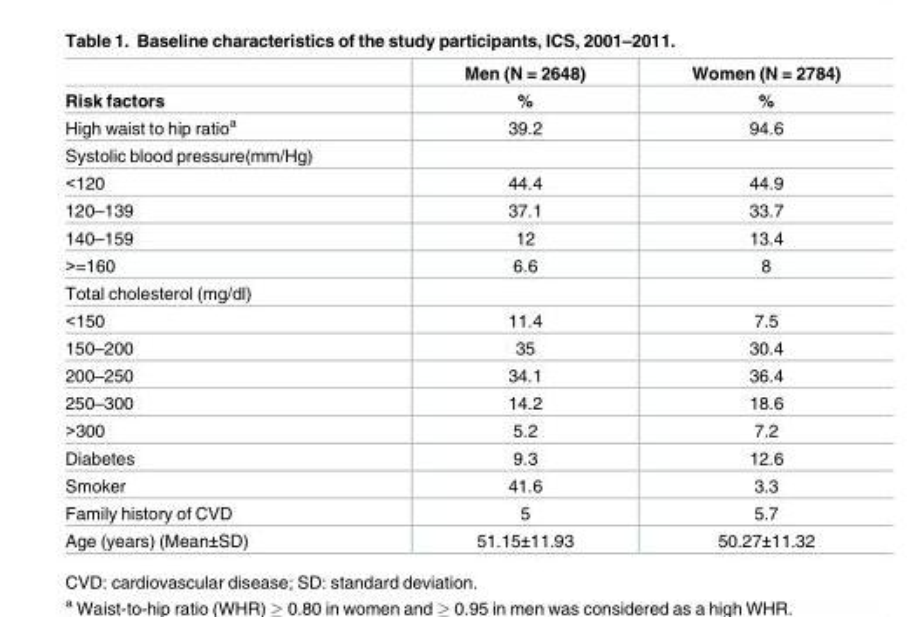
<table><thead><tr><td rowspan="2">Risk factors</td><td rowspan="2">Men (N = 2648) %</td><td rowspan="2">Women (N = 2784) %</td></tr><tr></tr></thead><tbody><tr><td>High waist to hip ratio<sup>a</sup></td><td>39.2</td><td>94.6</td></tr><tr><td colspan="3">Systolic blood pressure(mm/Hg)</td></tr><tr><td>&lt;120</td><td>44.4</td><td>44.9</td></tr><tr><td>120–139</td><td>37.1</td><td>33.7</td></tr><tr><td>140–159</td><td>12</td><td>13.4</td></tr><tr><td>&gt;=160</td><td>6.6</td><td>8</td></tr><tr><td colspan="3">Total cholesterol (mg/dl)</td></tr><tr><td>&lt;150</td><td>11.4</td><td>7.5</td></tr><tr><td>150–200</td><td>35</td><td>30.4</td></tr><tr><td>200–250</td><td>34.1</td><td>36.4</td></tr><tr><td>250–300</td><td>14.2</td><td>18.6</td></tr><tr><td>&gt;300</td><td>5.2</td><td>7.2</td></tr><tr><td>Diabetes</td><td>9.3</td><td>12.6</td></tr><tr><td>Smoker</td><td>41.6</td><td>3.3</td></tr><tr><td>Family history of CVD</td><td>5</td><td>5.7</td></tr><tr><td>Age (years) (Mean±SD)</td><td>51.15±11.93</td><td>50.27±11.32</td></tr></tbody></table>